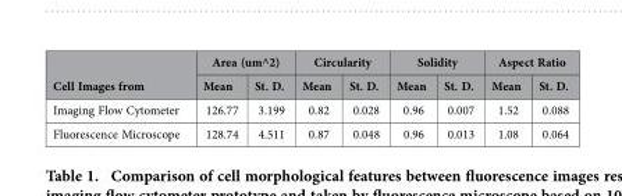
<table><thead><tr><td rowspan="2">Cell Images from</td><td colspan="2">Area (um^2)</td><td colspan="2">Circularity</td><td colspan="2">Solidity</td><td colspan="2">Aspect Ratio</td></tr><tr><td>Mean</td><td>St. D.</td><td>Mean</td><td>St. D.</td><td>Mean</td><td>St. D.</td><td>Mean</td><td>St. D.</td></tr></thead><tbody><tr><td>Imaging Flow Cytometer</td><td>126.77</td><td>3.199</td><td>0.82</td><td>0.028</td><td>0.96</td><td>0.007</td><td>1.52</td><td>0.088</td></tr><tr><td>Fluorescence Microscope</td><td>128.74</td><td>4.511</td><td>0.87</td><td>0.048</td><td>0.96</td><td>0.013</td><td>1.08</td><td>0.064</td></tr></tbody></table>